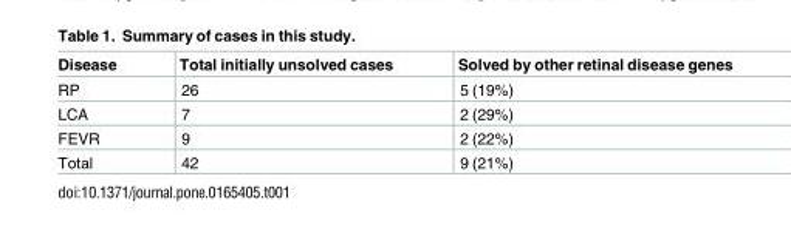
<table><thead><tr><td>Disease</td><td>Total initially unsolved cases</td><td>Solved by other retinal disease genes</td></tr></thead><tbody><tr><td>RP</td><td>26</td><td>5 (19%)</td></tr><tr><td>LCA</td><td>7</td><td>2 (29%)</td></tr><tr><td>FEVR</td><td>9</td><td>2 (22%)</td></tr><tr><td>Total</td><td>42</td><td>9 (21%)</td></tr></tbody></table>